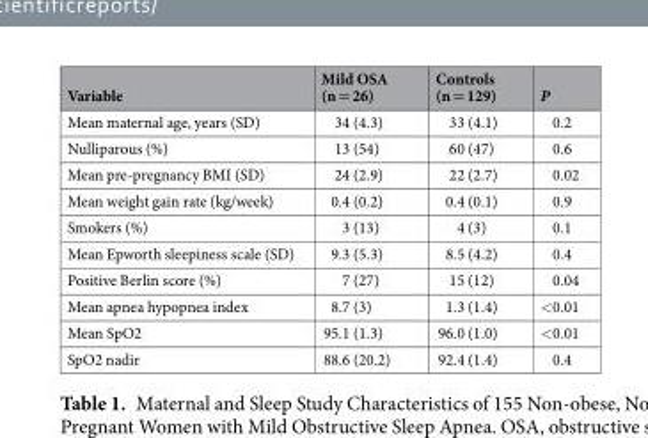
<table><thead><tr><td>Variable</td><td>Mild OSA (n = 26)</td><td>Controls (n = 129)</td><td>P</td></tr></thead><tbody><tr><td>Mean maternal age, years (SD)</td><td>34 (4.3)</td><td>33 (4.1)</td><td>0.2</td></tr><tr><td>Nulliparous (%)</td><td>13 (54)</td><td>60 (47)</td><td>0.6</td></tr><tr><td>Mean pre-pregnancy BMI (SD)</td><td>24 (2.9)</td><td>22 (2.7)</td><td>0.02</td></tr><tr><td>Mean weight gain rate (kg/week)</td><td>0.4 (0.2)</td><td>0.4 (0.1)</td><td>0.9</td></tr><tr><td>Smokers (%)</td><td>3 (13)</td><td>4 (3)</td><td>0.1</td></tr><tr><td>Mean Epworth sleepiness scale (SD)</td><td>9.3 (5.3)</td><td>8.5 (4.2)</td><td>0.4</td></tr><tr><td>Positive Berlin score (%)</td><td>7 (27)</td><td>15 (12)</td><td>0.04</td></tr><tr><td>Mean apnea hypopnea index</td><td>8.7 (3)</td><td>1.3 (1.4)</td><td>&lt;0.01</td></tr><tr><td>Mean SpO2</td><td>95.1 (1.3)</td><td>96.0 (1.0)</td><td>&lt;0.01</td></tr><tr><td>SpO2 nadir</td><td>88.6 (20.2)</td><td>92.4 (1.4)</td><td>0.4</td></tr></tbody></table>